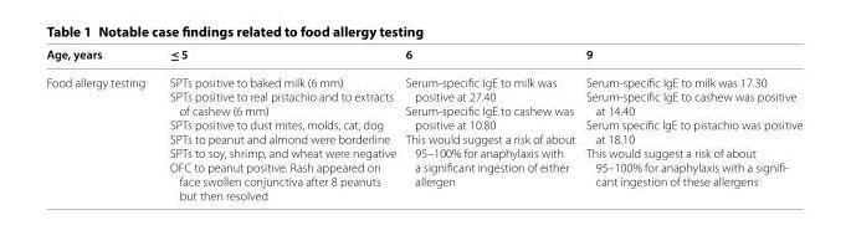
<table><thead><tr><td>Age, years</td><td>≤ 5</td><td>6</td><td>9</td></tr></thead><tbody><tr><td>Food allergy testing</td><td>SPTs positive to baked milk (6 mm) SPTs positive to real pistachio and to extracts of cashew (6 mm) SPTs positive to dust mites, molds, cat, dog SPTs to peanut and almond were borderline SPTs to soy, shrimp, and wheat were negative OFC to peanut positive. Rash appeared on face swollen conjunctiva after 8 peanuts but then resolved</td><td>Serum-specific IgE to milk was positive at 27.40 Serum-specific IgE to cashew was positive at 10.80 This would suggest a risk of about 95–100% for anaphylaxis with a significant ingestion of either allergen</td><td>Serum-specific IgE to milk was 17.30 Serum-specific IgE to cashew was positive at 14.40 Serum specific IgE to pistachio was positive at 18.10 This would suggest a risk of about 95–100% for anaphylaxis with a signifi- cant ingestion of these allergens</td></tr></tbody></table>